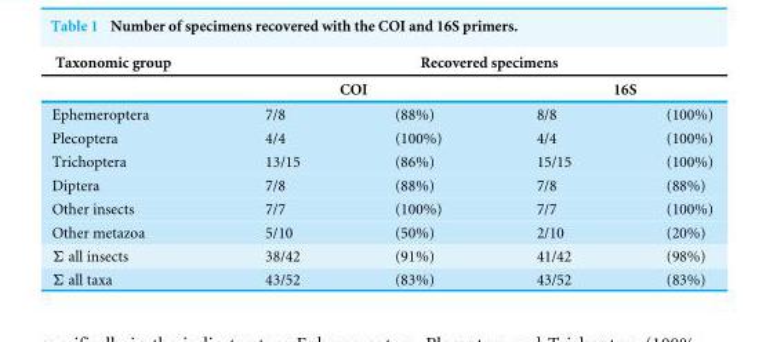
<table><thead><tr><td rowspan="3">Taxonomic group Ephemeroptera</td><td colspan="4">Recovered specimens</td></tr><tr><td colspan="2">COI</td><td colspan="2">16S</td></tr><tr><td>7/8</td><td>(88%)</td><td>8/8</td><td>(100%)</td></tr></thead><tbody><tr><td>Plecoptera</td><td>4/4</td><td>(100%)</td><td>4/4</td><td>(100%)</td></tr><tr><td>Trichoptera</td><td>13/15</td><td>(86%)</td><td>15/15</td><td>(100%)</td></tr><tr><td>Diptera</td><td>7/8</td><td>(88%)</td><td>7/8</td><td>(88%)</td></tr><tr><td>Other insects</td><td>7/7</td><td>(100%)</td><td>7/7</td><td>(100%)</td></tr><tr><td>Other metazoa</td><td>5/10</td><td>(50%)</td><td>2/10</td><td>(20%)</td></tr><tr><td>Σ all insects</td><td>38/42</td><td>(91%)</td><td>41/42</td><td>(98%)</td></tr><tr><td>Σ all taxa</td><td>43/52</td><td>(83%)</td><td>43/52</td><td>(83%)</td></tr></tbody></table>